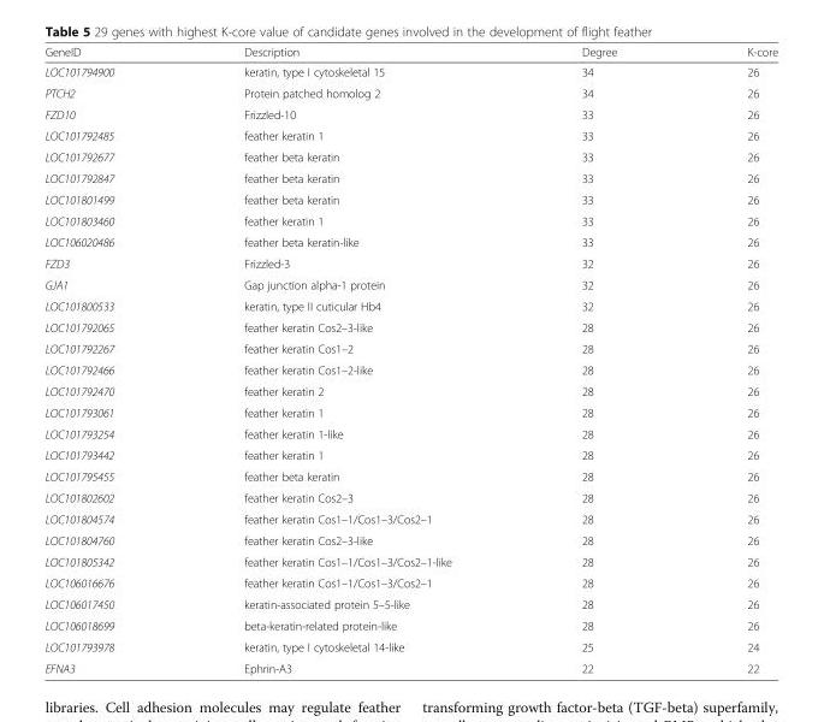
<table><thead><tr><td>GeneID</td><td>Description</td><td>Degree</td><td>K-core</td></tr></thead><tbody><tr><td>LOC101794900</td><td>keratin, type I cytoskeletal 15</td><td>34</td><td>26</td></tr><tr><td>PTCH2</td><td>Protein patched homolog 2</td><td>34</td><td>26</td></tr><tr><td>FZD10</td><td>Frizzled-10</td><td>33</td><td>26</td></tr><tr><td>LOC101792485</td><td>feather keratin 1</td><td>33</td><td>26</td></tr><tr><td>LOC101792677</td><td>feather beta keratin</td><td>33</td><td>26</td></tr><tr><td>LOC101792847</td><td>feather beta keratin</td><td>33</td><td>26</td></tr><tr><td>LOC101801499</td><td>feather beta keratin</td><td>33</td><td>26</td></tr><tr><td>LOC101803460</td><td>feather keratin 1</td><td>33</td><td>26</td></tr><tr><td>LOC106020486</td><td>feather beta keratin-like</td><td>33</td><td>26</td></tr><tr><td>FZD3</td><td>Frizzled-3</td><td>32</td><td>26</td></tr><tr><td>GJA1</td><td>Gap junction alpha-1 protein</td><td>32</td><td>26</td></tr><tr><td>LOC101800533</td><td>keratin, type II cuticular Hb4</td><td>32</td><td>26</td></tr><tr><td>LOC101792065</td><td>feather keratin Cos2–3-like</td><td>28</td><td>26</td></tr><tr><td>LOC101792267</td><td>feather keratin Cos1–2</td><td>28</td><td>26</td></tr><tr><td>LOC101792466</td><td>feather keratin Cos1–2-like</td><td>28</td><td>26</td></tr><tr><td>LOC101792470</td><td>feather keratin 2</td><td>28</td><td>26</td></tr><tr><td>LOC101793061</td><td>feather keratin 1</td><td>28</td><td>26</td></tr><tr><td>LOC101793254</td><td>feather keratin 1-like</td><td>28</td><td>26</td></tr><tr><td>LOC101793442</td><td>feather keratin 1</td><td>28</td><td>26</td></tr><tr><td>LOC101795455</td><td>feather beta keratin</td><td>28</td><td>26</td></tr><tr><td>LOC101802602</td><td>feather keratin Cos2–3</td><td>28</td><td>26</td></tr><tr><td>LOC101804574</td><td>feather keratin Cos1–1/Cos1–3/Cos2–1</td><td>28</td><td>26</td></tr><tr><td>LOC101804760</td><td>feather keratin Cos2–3-like</td><td>28</td><td>26</td></tr><tr><td>LOC101805342</td><td>feather keratin Cos1–1/Cos1–3/Cos2–1-like</td><td>28</td><td>26</td></tr><tr><td>LOC106016676</td><td>feather keratin Cos1–1/Cos1–3/Cos2–1</td><td>28</td><td>26</td></tr><tr><td>LOC106017450</td><td>keratin-associated protein 5–5-like</td><td>28</td><td>26</td></tr><tr><td>LOC106018699</td><td>beta-keratin-related protein-like</td><td>28</td><td>26</td></tr><tr><td>LOC101793978</td><td>keratin, type I cytoskeletal 14-like</td><td>25</td><td>24</td></tr><tr><td>EFNA3</td><td>Ephrin-A3</td><td>22</td><td>22</td></tr></tbody></table>